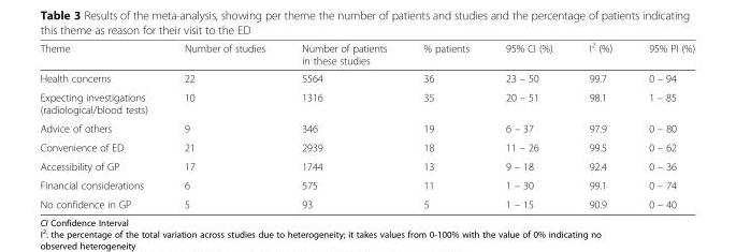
<table><thead><tr><td>Theme</td><td>Number of studies</td><td>Number of patients in these studies</td><td>% patients</td><td>95% CI (%)</td><td>I<sup>2</sup> (%)</td><td>95% PI (%)</td></tr></thead><tbody><tr><td>Health concerns</td><td>22</td><td>5564</td><td>36</td><td>23 – 50</td><td>99.7</td><td>0 – 94</td></tr><tr><td>Expecting investigations (radiological/blood tests)</td><td>10</td><td>1316</td><td>35</td><td>20 – 51</td><td>98.1</td><td>1 – 85</td></tr><tr><td>Advice of others</td><td>9</td><td>346</td><td>19</td><td>6 – 37</td><td>97.9</td><td>0 – 80</td></tr><tr><td>Convenience of ED</td><td>21</td><td>2939</td><td>18</td><td>11 – 26</td><td>99.5</td><td>0 – 62</td></tr><tr><td>Accessibility of GP</td><td>17</td><td>1744</td><td>13</td><td>9 – 18</td><td>92.4</td><td>0 – 36</td></tr><tr><td>Financial considerations</td><td>6</td><td>575</td><td>11</td><td>1 – 30</td><td>99.1</td><td>0 – 74</td></tr><tr><td>No confidence in GP</td><td>5</td><td>93</td><td>5</td><td>1 – 15</td><td>90.9</td><td>0 – 40</td></tr></tbody></table>